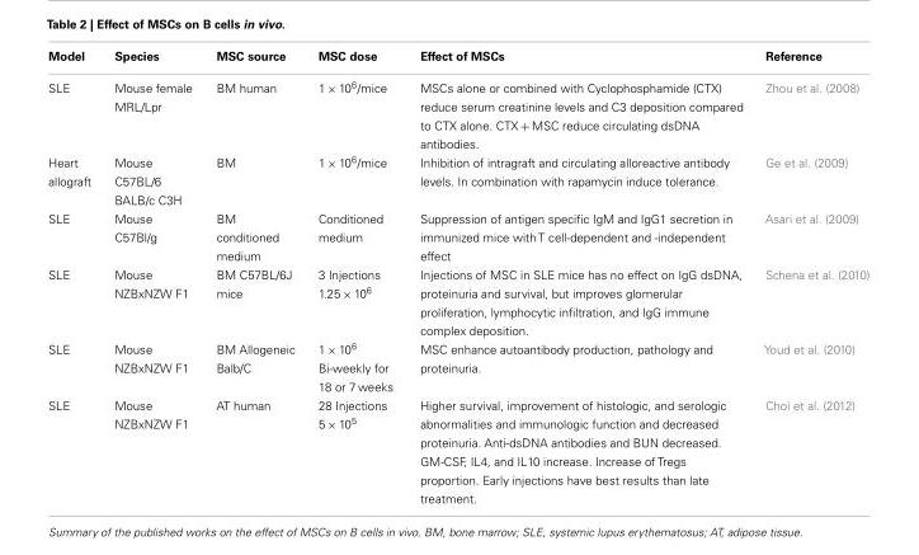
<table><thead><tr><td>Model</td><td>Species</td><td>MSC source</td><td>MSC dose</td><td>Effect of MSCs</td><td>Reference</td></tr></thead><tbody><tr><td>SLE</td><td>Mouse female MRL/Lpr</td><td>BM human</td><td>1 × 10<sup>6</sup>/mice</td><td>MSCs alone or combined with Cyclophosphamide (CTX) reduce serum creatinine levels and C3 deposition compared to CTX alone. CTX + MSC reduce circulating dsDNA antibodies.</td><td>Zhou et al. (2008)</td></tr><tr><td>Heart allograft</td><td>Mouse C57BL/6 BALB/c C3H</td><td>BM</td><td>1 × 10<sup>6</sup>/mice</td><td>Inhibition of intragraft and circulating alloreactive antibody levels. In combination with rapamycin induce tolerance.</td><td>Ge et al. (2009)</td></tr><tr><td>SLE</td><td>Mouse C57Bl/g</td><td>BM conditioned medium</td><td>Conditioned medium</td><td>Suppression of antigen specific IgM and IgG1 secretion in immunized mice with T cell-dependent and -independent effect</td><td>Asari et al. (2009)</td></tr><tr><td>SLE</td><td>Mouse NZBxNZW F1</td><td>BM C57BL/6J mice</td><td>3 Injections 1.25 × 10<sup>6</sup></td><td>Injections of MSC in SLE mice has no effect on IgG dsDNA, proteinuria and survival, but improves glomerular proliferation, lymphocytic infiltration, and IgG immune complex deposition.</td><td>Schena et al. (2010)</td></tr><tr><td>SLE</td><td>Mouse NZBxNZW F1</td><td>BM Allogeneic Balb/C</td><td>1 × 10<sup>6</sup> Bi-weekly for 18 or 7 weeks</td><td>MSC enhance autoantibody production, pathology and proteinuria.</td><td>Youd et al. (2010)</td></tr><tr><td>SLE</td><td>Mouse NZBxNZW F1</td><td>AT human</td><td>28 Injections 5 × 10<sup>5</sup></td><td>Higher survival, improvement of histologic, and serologic abnormalities and immunologic function and decreased proteinuria. Anti-dsDNA antibodies and BUN decreased. GM-CSF, IL4, and IL10 increase. Increase of Tregs proportion. Early injections have best results than late treatment.</td><td>Choi et al. (2012)</td></tr></tbody></table>